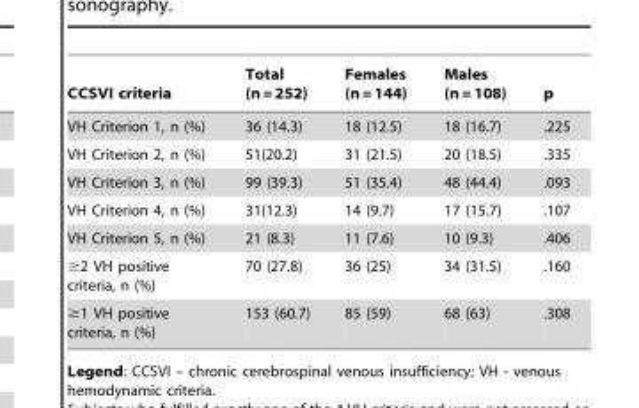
<table><thead><tr><td>CCSVI criteria</td><td>Total (n = 252)</td><td>Females (n = 144)</td><td>Males (n = 108)</td><td>p</td></tr></thead><tbody><tr><td>VH Criterion 1, n (%)</td><td>36 (14.3)</td><td>18 (12.5)</td><td>18 (16.7)</td><td>.225</td></tr><tr><td>VH Criterion 2, n (%)</td><td>51(20.2)</td><td>31 (21.5)</td><td>20 (18.5)</td><td>.335</td></tr><tr><td>VH Criterion 3, n (%)</td><td>99 (39.3)</td><td>51 (35.4)</td><td>48 (44.4)</td><td>.093</td></tr><tr><td>VH Criterion 4, n (%)</td><td>31(12.3)</td><td>14 (9.7)</td><td>17 (15.7)</td><td>.107</td></tr><tr><td>VH Criterion 5, n (%)</td><td>21 (8.3)</td><td>11 (7.6)</td><td>10 (9.3)</td><td>.406</td></tr><tr><td>≥2 VH positive criteria, n (%)</td><td>70 (27.8)</td><td>36 (25)</td><td>34 (31.5)</td><td>.160</td></tr><tr><td>≥1 VH positive criteria, n (%)</td><td>153 (60.7)</td><td>85 (59)</td><td>68 (63)</td><td>.308</td></tr></tbody></table>